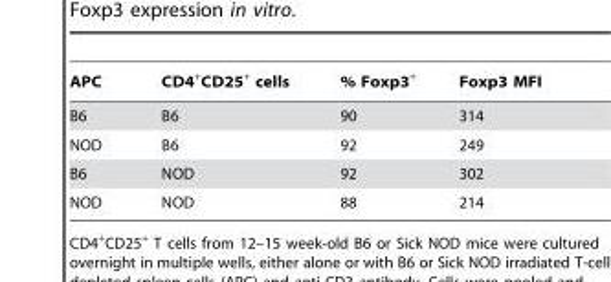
<table><thead><tr><td>APC</td><td>CD4<sup>+</sup>CD25<sup>+</sup> cells</td><td>% Foxp3<sup>+</sup></td><td>Foxp3 MFI</td></tr></thead><tbody><tr><td>B6</td><td>B6</td><td>90</td><td>314</td></tr><tr><td>NOD</td><td>B6</td><td>92</td><td>249</td></tr><tr><td>B6</td><td>NOD</td><td>92</td><td>302</td></tr><tr><td>NOD</td><td>NOD</td><td>88</td><td>214</td></tr></tbody></table>